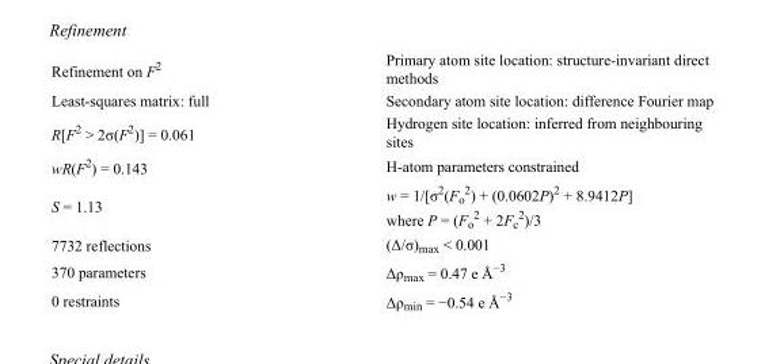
<table><tbody><tr><td>Refinement on F<sup>2</sup></td><td>Primary atom site location: structure-invariant direct methods</td></tr><tr><td>Least-squares matrix: full</td><td>Secondary atom site location: difference Fourier map</td></tr><tr><td>R[F<sup>2</sup> &gt; 2σ(F<sup>2</sup>)] = 0.061</td><td>Hydrogen site location: inferred from neighbouring sites</td></tr><tr><td>wR(F<sup>2</sup>) = 0.143</td><td>H-atom parameters constrained</td></tr><tr><td>S = 1.13</td><td>w = 1/[σ<sup>2</sup>(F<sub>o</sub> <sup>2</sup>) + (0.0602P)<sup>2</sup> + 8.9412P] where P = (F<sub>o</sub> <sup>2</sup> + 2F<sub>c</sub> <sup>2</sup>)/3</td></tr><tr><td>7732 reflections</td><td>(Δ/σ)<sub>max</sub> &lt; 0.001</td></tr><tr><td>370 parameters</td><td>Δρ<sub>max</sub> = 0.47 e Å<sup>−3</sup></td></tr><tr><td>0 restraints</td><td>Δρ<sub>min</sub> = −0.54 e Å<sup>−3</sup></td></tr></tbody></table>